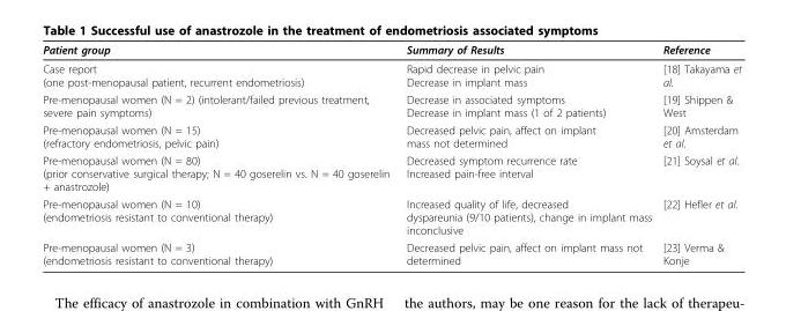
<table><thead><tr><td>Patient group</td><td>Summary of Results</td><td>Reference</td></tr></thead><tbody><tr><td>Case report (one post-menopausal patient, recurrent endometriosis)</td><td>Rapid decrease in pelvic pain Decrease in implant mass</td><td>[18] Takayama et al.</td></tr><tr><td>Pre-menopausal women (N = 2) (intolerant/failed previous treatment, severe pain symptoms)</td><td>Decrease in associated symptoms Decrease in implant mass (1 of 2 patients)</td><td>[19] Shippen &amp; West</td></tr><tr><td>Pre-menopausal women (N = 15) (refractory endometriosis, pelvic pain)</td><td>Decreased pelvic pain, affect on implant mass not determined</td><td>[20] Amsterdam et al.</td></tr><tr><td>Pre-menopausal women (N = 80) (prior conservative surgical therapy; N = 40 goserelin vs. N = 40 goserelin + anastrozole)</td><td>Decreased symptom recurrence rate Increased pain-free interval</td><td>[21] Soysal et al.</td></tr><tr><td>Pre-menopausal women (N = 10) (endometriosis resistant to conventional therapy)</td><td>Increased quality of life, decreased dyspareunia (9/10 patients), change in implant mass inconclusive</td><td>[22] Hefler et al.</td></tr><tr><td>Pre-menopausal women (N = 3) (endometriosis resistant to conventional therapy)</td><td>Decreased pelvic pain, affect on implant mass not determined</td><td>[23] Verma &amp; Konje</td></tr></tbody></table>